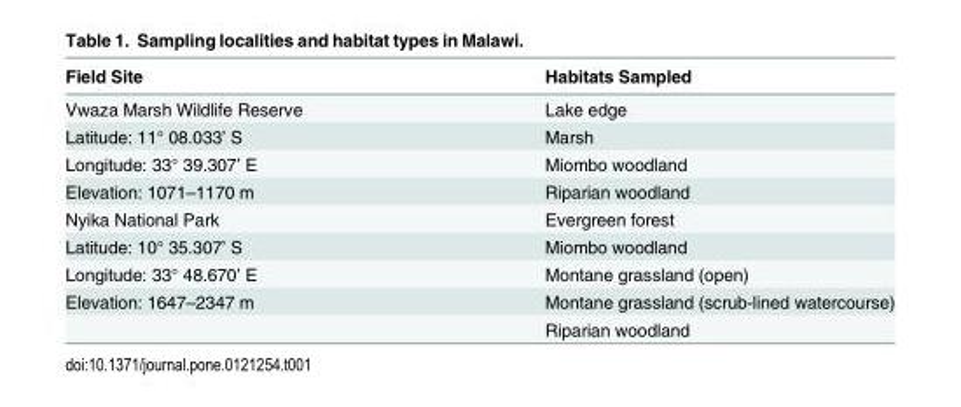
<table><thead><tr><td>Field Site</td><td>Habitats Sampled</td></tr></thead><tbody><tr><td>Vwaza Marsh Wildlife Reserve</td><td>Lake edge</td></tr><tr><td>Latitude: 11° 08.033’ S</td><td>Marsh</td></tr><tr><td>Longitude: 33° 39.307’ E</td><td>Miombo woodland</td></tr><tr><td>Elevation: 1071–1170 m</td><td>Riparian woodland</td></tr><tr><td>Nyika National Park</td><td>Evergreen forest</td></tr><tr><td>Latitude: 10° 35.307’ S</td><td>Miombo woodland</td></tr><tr><td>Longitude: 33° 48.670’ E</td><td>Montane grassland (open)</td></tr><tr><td rowspan="2">Elevation: 1647–2347 m</td><td>Montane grassland (scrub-lined watercourse)</td></tr><tr><td>Riparian woodland</td></tr></tbody></table>